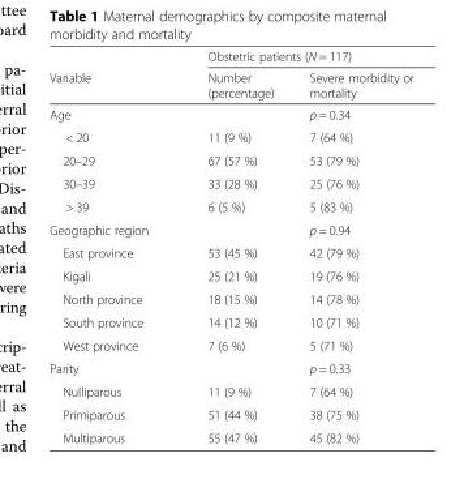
<table><thead><tr><td rowspan="2">Variable</td><td colspan="2">Obstetric patients (N = 117)</td></tr><tr><td>Number (percentage)</td><td>Severe morbidity or mortality</td></tr></thead><tbody><tr><td>Age</td><td></td><td>p = 0.34</td></tr><tr><td>&lt; 20</td><td>11 (9 %)</td><td>7 (64 %)</td></tr><tr><td>20–29</td><td>67 (57 %)</td><td>53 (79 %)</td></tr><tr><td>30–39</td><td>33 (28 %)</td><td>25 (76 %)</td></tr><tr><td>&gt; 39</td><td>6 (5 %)</td><td>5 (83 %)</td></tr><tr><td>Geographic region</td><td></td><td>p = 0.94</td></tr><tr><td>East province</td><td>53 (45 %)</td><td>42 (79 %)</td></tr><tr><td>Kigali</td><td>25 (21 %)</td><td>19 (76 %)</td></tr><tr><td>North province</td><td>18 (15 %)</td><td>14 (78 %)</td></tr><tr><td>South province</td><td>14 (12 %)</td><td>10 (71 %)</td></tr><tr><td>West province</td><td>7 (6 %)</td><td>5 (71 %)</td></tr><tr><td>Parity</td><td></td><td>p = 0.33</td></tr><tr><td>Nulliparous</td><td>11 (9 %)</td><td>7 (64 %)</td></tr><tr><td>Primiparous</td><td>51 (44 %)</td><td>38 (75 %)</td></tr><tr><td>Multiparous</td><td>55 (47 %)</td><td>45 (82 %)</td></tr></tbody></table>